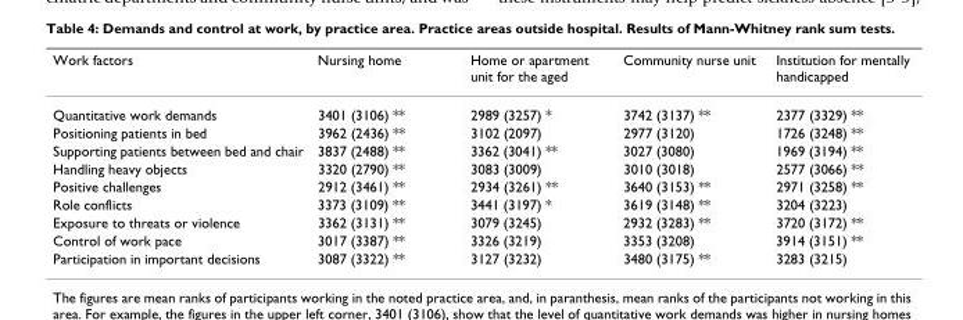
<table><thead><tr><td>Work factors</td><td>Nursing home</td><td>Home or apartment unit for the aged</td><td>Community nurse unit</td><td>Institution for mentally handicapped</td></tr></thead><tbody><tr><td>Quantitative work demands</td><td>3401 (3106) **</td><td>2989 (3257) *</td><td>3742 (3137) **</td><td>2377 (3329) **</td></tr><tr><td>Positioning patients in bed</td><td>3962 (2436) **</td><td>3102 (2097)</td><td>2977 (3120)</td><td>1726 (3248) **</td></tr><tr><td>Supporting patients between bed and chair</td><td>3837 (2488) **</td><td>3362 (3041) **</td><td>3027 (3080)</td><td>1969 (3194) **</td></tr><tr><td>Handling heavy objects</td><td>3320 (2790) **</td><td>3083 (3009)</td><td>3010 (3018)</td><td>2577 (3066) **</td></tr><tr><td>Positive challenges</td><td>2912 (3461) **</td><td>2934 (3261) **</td><td>3640 (3153) **</td><td>2971 (3258) **</td></tr><tr><td>Role conflicts</td><td>3373 (3109) **</td><td>3441 (3197) *</td><td>3619 (3148) **</td><td>3204 (3223)</td></tr><tr><td>Exposure to threats or violence</td><td>3362 (3131) **</td><td>3079 (3245)</td><td>2932 (3283) **</td><td>3720 (3172) **</td></tr><tr><td>Control of work pace</td><td>3017 (3387) **</td><td>3326 (3219)</td><td>3353 (3208)</td><td>3914 (3151) **</td></tr><tr><td>Participation in important decisions</td><td>3087 (3322) **</td><td>3127 (3232)</td><td>3480 (3175) **</td><td>3283 (3215)</td></tr></tbody></table>